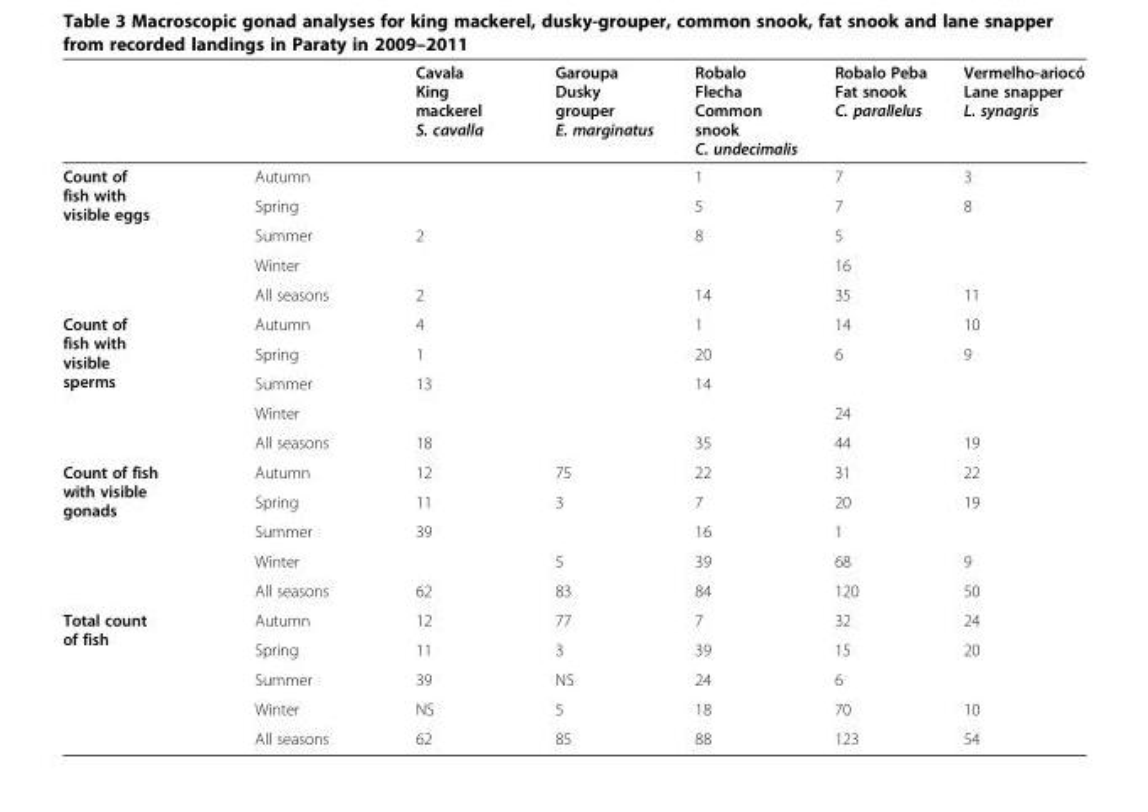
<table><thead><tr><td></td><td></td><td>Cavala King mackerel S. cavalla</td><td>Garoupa Dusky grouper E. marginatus</td><td>Robalo Flecha Common snook C. undecimalis</td><td>Robalo Peba Fat snook C. parallelus</td><td>Vermelho-ariocó Lane snapper L. synagris</td></tr></thead><tbody><tr><td rowspan="5">Count of fish with visible eggs</td><td>Autumn</td><td></td><td></td><td>1</td><td>7</td><td>3</td></tr><tr><td>Spring</td><td></td><td></td><td>5</td><td>7</td><td>8</td></tr><tr><td>Summer</td><td>2</td><td></td><td>8</td><td>5</td><td></td></tr><tr><td>Winter</td><td></td><td></td><td></td><td>16</td><td></td></tr><tr><td>All seasons</td><td>2</td><td></td><td>14</td><td>35</td><td>11</td></tr><tr><td rowspan="5">Count of fish with visible sperms</td><td>Autumn</td><td>4</td><td></td><td>1</td><td>14</td><td>10</td></tr><tr><td>Spring</td><td>1</td><td></td><td>20</td><td>6</td><td>9</td></tr><tr><td>Summer</td><td>13</td><td></td><td>14</td><td></td><td></td></tr><tr><td>Winter</td><td></td><td></td><td></td><td>24</td><td></td></tr><tr><td>All seasons</td><td>18</td><td></td><td>35</td><td>44</td><td>19</td></tr><tr><td rowspan="5">Count of fish with visible gonads</td><td>Autumn</td><td>12</td><td>75</td><td>22</td><td>31</td><td>22</td></tr><tr><td>Spring</td><td>11</td><td>3</td><td>7</td><td>20</td><td>19</td></tr><tr><td>Summer</td><td>39</td><td></td><td>16</td><td>1</td><td></td></tr><tr><td>Winter</td><td></td><td>5</td><td>39</td><td>68</td><td>9</td></tr><tr><td>All seasons</td><td>62</td><td>83</td><td>84</td><td>120</td><td>50</td></tr><tr><td rowspan="5">Total count of fish</td><td>Autumn</td><td>12</td><td>77</td><td>7</td><td>32</td><td>24</td></tr><tr><td>Spring</td><td>11</td><td>3</td><td>39</td><td>15</td><td>20</td></tr><tr><td>Summer</td><td>39</td><td>NS</td><td>24</td><td>6</td><td></td></tr><tr><td>Winter</td><td>NS</td><td>5</td><td>18</td><td>70</td><td>10</td></tr><tr><td>All seasons</td><td>62</td><td>85</td><td>88</td><td>123</td><td>54</td></tr></tbody></table>